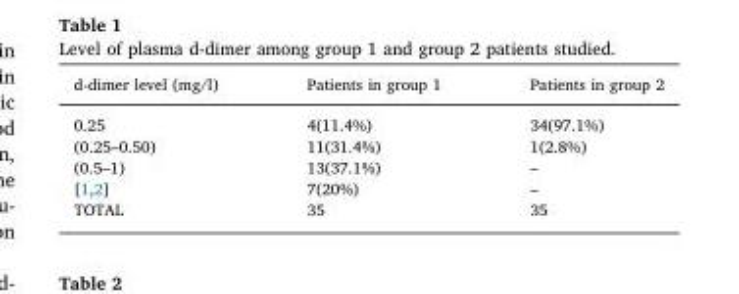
<table><thead><tr><td>d-dimer level (mg/l)</td><td>Patients in group 1</td><td>Patients in group 2</td></tr></thead><tbody><tr><td>0.25</td><td>4(11.4%)</td><td>34(97.1%)</td></tr><tr><td>(0.25–0.50)</td><td>11(31.4%)</td><td>1(2.8%)</td></tr><tr><td>(0.5–1)</td><td>13(37.1%)</td><td>–</td></tr><tr><td>[1,2]</td><td>7(20%)</td><td>–</td></tr><tr><td>TOTAL</td><td>35</td><td>35</td></tr></tbody></table>